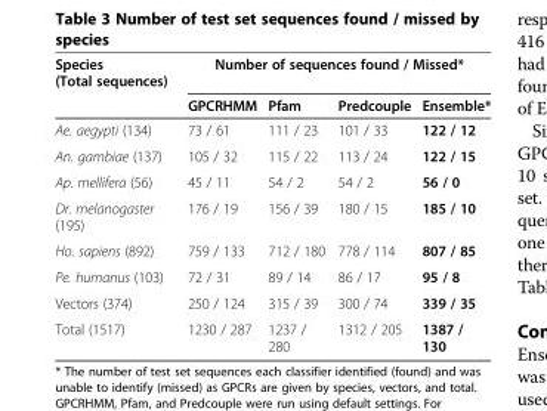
<table><thead><tr><td rowspan="2">Species (Total sequences)</td><td colspan="4">Number of sequences found / Missed*</td></tr><tr><td>GPCRHMM</td><td>Pfam</td><td>Predcouple</td><td>Ensemble*</td></tr></thead><tbody><tr><td>Ae. aegypti (134)</td><td>73 / 61</td><td>111 / 23</td><td>101 / 33</td><td>122 / 12</td></tr><tr><td>An. gambiae (137)</td><td>105 / 32</td><td>115 / 22</td><td>113 / 24</td><td>122 / 15</td></tr><tr><td>Ap. mellifera (56)</td><td>45 / 11</td><td>54 / 2</td><td>54 / 2</td><td>56 / 0</td></tr><tr><td>Dr. melanogaster (195)</td><td>176 / 19</td><td>156 / 39</td><td>180 / 15</td><td>185 / 10</td></tr><tr><td>Ho. sapiens (892)</td><td>759 / 133</td><td>712 / 180</td><td>778 / 114</td><td>807 / 85</td></tr><tr><td>Pe. humanus (103)</td><td>72 / 31</td><td>89 / 14</td><td>86 / 17</td><td>95 / 8</td></tr><tr><td>Vectors (374)</td><td>250 / 124</td><td>315 / 39</td><td>300 / 74</td><td>339 / 35</td></tr><tr><td>Total (1517)</td><td>1230 / 287</td><td>1237 / 280</td><td>1312 / 205</td><td>1387 / 130</td></tr></tbody></table>